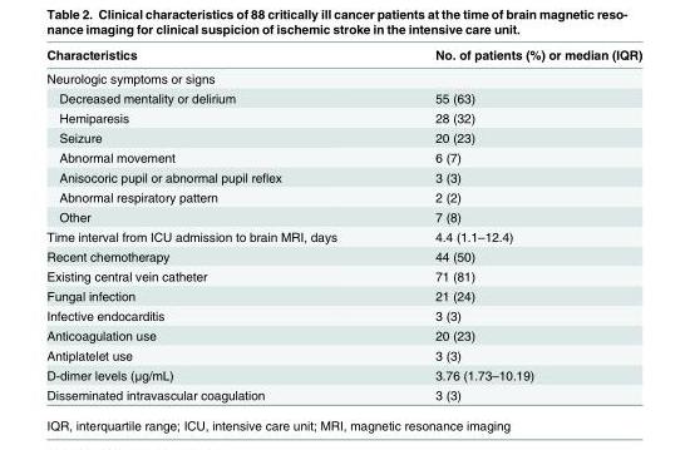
<table><thead><tr><td>Characteristics</td><td>No. of patients (%) or median (IQR)</td></tr></thead><tbody><tr><td colspan="2">Neurologic symptoms or signs</td></tr><tr><td>Decreased mentality or delirium</td><td>55 (63)</td></tr><tr><td>Hemiparesis</td><td>28 (32)</td></tr><tr><td>Seizure</td><td>20 (23)</td></tr><tr><td>Abnormal movement</td><td>6 (7)</td></tr><tr><td>Anisocoric pupil or abnormal pupil reflex</td><td>3 (3)</td></tr><tr><td>Abnormal respiratory pattern</td><td>2 (2)</td></tr><tr><td>Other</td><td>7 (8)</td></tr><tr><td>Time interval from ICU admission to brain MRI, days</td><td>4.4 (1.1–12.4)</td></tr><tr><td>Recent chemotherapy</td><td>44 (50)</td></tr><tr><td>Existing central vein catheter</td><td>71 (81)</td></tr><tr><td>Fungal infection</td><td>21 (24)</td></tr><tr><td>Infective endocarditis</td><td>3 (3)</td></tr><tr><td>Anticoagulation use</td><td>20 (23)</td></tr><tr><td>Antiplatelet use</td><td>3 (3)</td></tr><tr><td>D-dimer levels (μg/mL)</td><td>3.76 (1.73–10.19)</td></tr><tr><td>Disseminated intravascular coagulation</td><td>3 (3)</td></tr></tbody></table>